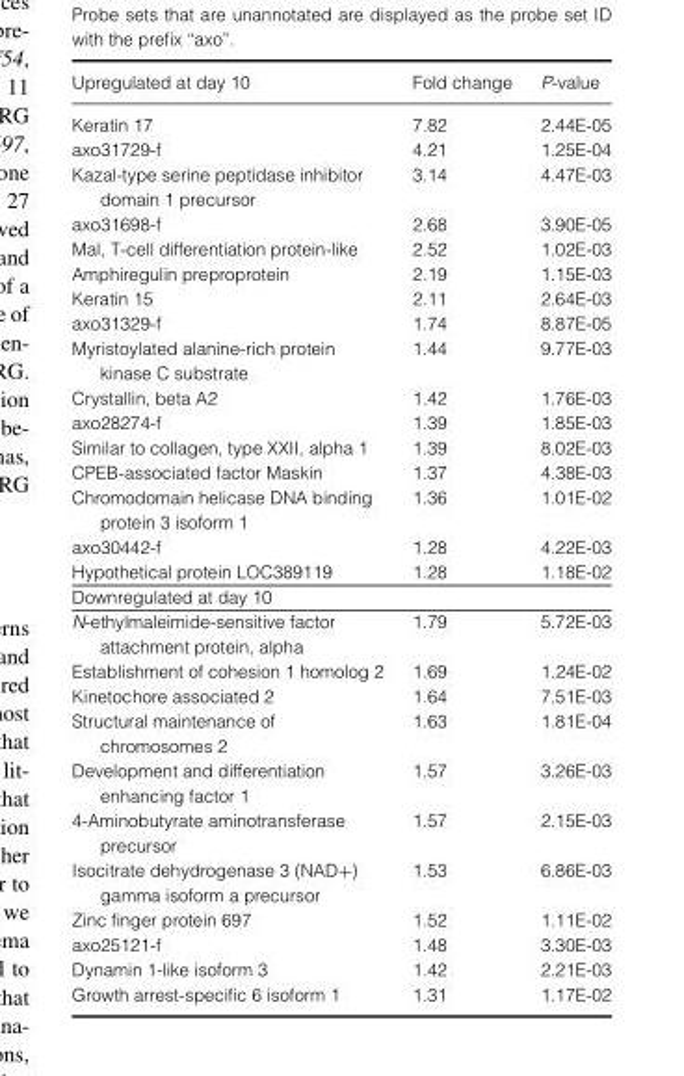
<table><thead><tr><td>Upregulated at day 10</td><td>Fold change</td><td>P-value</td></tr></thead><tbody><tr><td>Keratin 17</td><td>7.82</td><td>2.44E-05</td></tr><tr><td>axo31729-f</td><td>4.21</td><td>1.25E-04</td></tr><tr><td>Kazal-type serine peptidase inhibitor domain 1 precursor</td><td>3.14</td><td>4.47E-03</td></tr><tr><td>axo31698-f</td><td>2.68</td><td>3.90E-05</td></tr><tr><td>Mal, T-cell differentiation protein-like</td><td>2.52</td><td>1.02E-03</td></tr><tr><td>Amphiregulin preproprotein</td><td>2.19</td><td>1.15E-03</td></tr><tr><td>Keratin 15</td><td>2.11</td><td>2.64E-03</td></tr><tr><td>axo31329-f</td><td>1.74</td><td>8.87E-05</td></tr><tr><td>Myristoylated alanine-rich protein kinase C substrate</td><td>1.44</td><td>9.77E-03</td></tr><tr><td>Crystallin, beta A2</td><td>1.42</td><td>1.76E-03</td></tr><tr><td>axo28274-f</td><td>1.39</td><td>1.85E-03</td></tr><tr><td>Similar to collagen, type XXII, alpha 1</td><td>1.39</td><td>8.02E-03</td></tr><tr><td>CPEB-associated factor Maskin</td><td>1.37</td><td>4.38E-03</td></tr><tr><td>Chromodomain helicase DNA binding protein 3 isoform 1</td><td>1.36</td><td>1.01E-02</td></tr><tr><td>axo30442-f</td><td>1.28</td><td>4.22E-03</td></tr><tr><td>Hypothetical protein LOC389119</td><td>1.28</td><td>1.18E-02</td></tr><tr><td colspan="3">Downregulated at day 10</td></tr><tr><td>N-ethylmaleimide-sensitive factor attachment protein, alpha</td><td>1.79</td><td>5.72E-03</td></tr><tr><td>Establishment of cohesion 1 homolog 2</td><td>1.69</td><td>1.24E-02</td></tr><tr><td>Kinetochore associated 2</td><td>1.64</td><td>7.51E-03</td></tr><tr><td>Structural maintenance of chromosomes 2</td><td>1.63</td><td>1.81E-04</td></tr><tr><td>Development and differentiation enhancing factor 1</td><td>1.57</td><td>3.26E-03</td></tr><tr><td>4-Aminobutyrate aminotransferase precursor</td><td>1.57</td><td>2.15E-03</td></tr><tr><td>Isocitrate dehydrogenase 3 (NAD+) gamma isoform a precursor</td><td>1.53</td><td>6.86E-03</td></tr><tr><td>Zinc finger protein 697</td><td>1.52</td><td>1.11E-02</td></tr><tr><td>axo25121-f</td><td>1.48</td><td>3.30E-03</td></tr><tr><td>Dynamin 1-like isoform 3</td><td>1.42</td><td>2.21E-03</td></tr><tr><td>Growth arrest-specific 6 isoform 1</td><td>1.31</td><td>1.17E-02</td></tr></tbody></table>